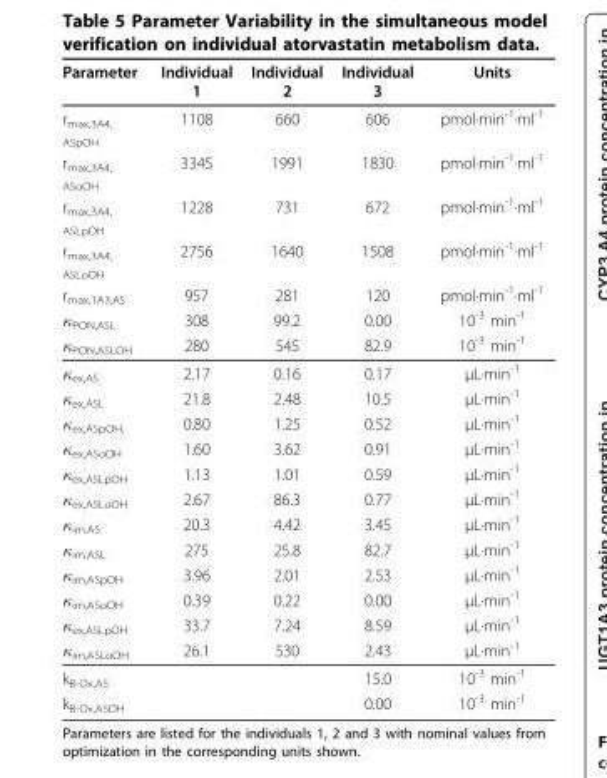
<table><thead><tr><td>Parameter</td><td>Individual 1</td><td>Individual 2</td><td>Individual 3</td><td>Units</td></tr></thead><tbody><tr><td>r<sub>max,3A4, ASpOH</sub></td><td>1108</td><td>660</td><td>606</td><td>pmol·min<sup>-1</sup>·ml<sup>-1</sup></td></tr><tr><td>r<sub>max,3A4, ASoOH</sub></td><td>3345</td><td>1991</td><td>1830</td><td>pmol·min<sup>-1</sup>·ml<sup>-1</sup></td></tr><tr><td>r<sub>max,3A4, ASLpOH</sub></td><td>1228</td><td>731</td><td>672</td><td>pmol·min<sup>-1</sup>·ml<sup>-1</sup></td></tr><tr><td>r<sub>max,3A4, ASLoOH</sub></td><td>2756</td><td>1640</td><td>1508</td><td>pmol·min<sup>-1</sup>·ml<sup>-1</sup></td></tr><tr><td>r<sub>max,1A3,AS</sub></td><td>957</td><td>281</td><td>120</td><td>pmol·min<sup>-1</sup>·ml<sup>-1</sup></td></tr><tr><td>κ<sub>PON,ASL</sub></td><td>308</td><td>99.2</td><td>0.00</td><td>10<sup>-3</sup> min<sup>-1</sup></td></tr><tr><td>κ<sub>PON,ASLOH</sub></td><td>280</td><td>545</td><td>82.9</td><td>10<sup>-3</sup> min<sup>-1</sup></td></tr><tr><td>κ<sub>ex,AS</sub></td><td>2.17</td><td>0.16</td><td>0.17</td><td>μL·min<sup>-1</sup></td></tr><tr><td>κ<sub>ex,ASL</sub></td><td>21.8</td><td>2.48</td><td>10.5</td><td>μL·min<sup>-1</sup></td></tr><tr><td>κ<sub>ex,ASpOH,</sub></td><td>0.80</td><td>1.25</td><td>0.52</td><td>μL·min<sup>-1</sup></td></tr><tr><td>κ<sub>ex,ASoOH</sub></td><td>1.60</td><td>3.62</td><td>0.91</td><td>μL·min<sup>-1</sup></td></tr><tr><td>κ<sub>ex,ASLpOH</sub></td><td>1.13</td><td>1.01</td><td>0.59</td><td>μL·min<sup>-1</sup></td></tr><tr><td>κ<sub>ex,ASLoOH</sub></td><td>2.67</td><td>86.3</td><td>0.77</td><td>μL·min<sup>-1</sup></td></tr><tr><td>κ<sub>im.AS</sub></td><td>20.3</td><td>4.42</td><td>3.45</td><td>μL·min<sup>-1</sup></td></tr><tr><td>κ<sub>im.ASL</sub></td><td>275</td><td>25.8</td><td>82.7</td><td>μL·min<sup>-1</sup></td></tr><tr><td>κ<sub>im,ASpOH</sub></td><td>3.96</td><td>2.01</td><td>2.53</td><td>μL·min<sup>-1</sup></td></tr><tr><td>κ<sub>im,ASoOH</sub></td><td>0.39</td><td>0.22</td><td>0.00</td><td>μL·min<sup>-1</sup></td></tr><tr><td>κ<sub>ex,ASLpOH</sub></td><td>33.7</td><td>7.24</td><td>8.59</td><td>μL·min<sup>-1</sup></td></tr><tr><td>κ<sub>im,ASLoOH</sub></td><td>26.1</td><td>530</td><td>2.43</td><td>μL·min<sup>-1</sup></td></tr><tr><td>k<sub>B-Ox,AS</sub></td><td></td><td></td><td>15.0</td><td>10<sup>-3</sup> min<sup>-1</sup></td></tr><tr><td>k<sub>B-Ox,ASOH</sub></td><td></td><td></td><td>0.00</td><td>10<sup>-3</sup> min<sup>-1</sup></td></tr></tbody></table>